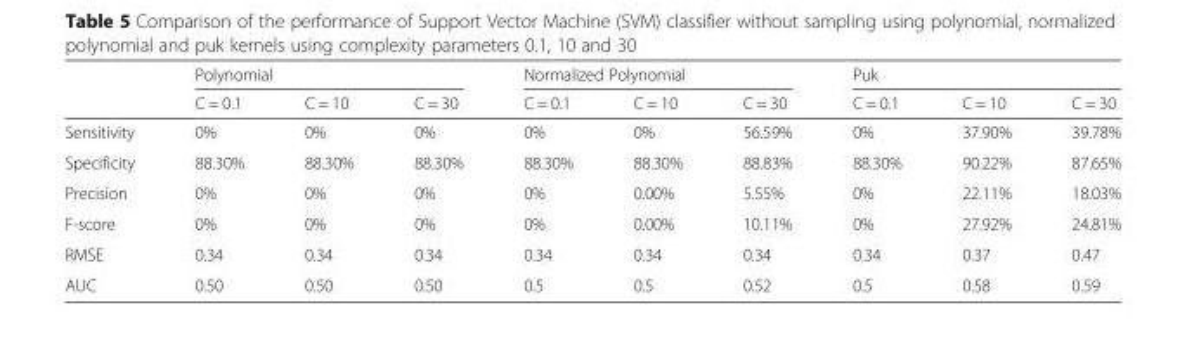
<table><thead><tr><td rowspan="2"></td><td colspan="3">Polynomial</td><td colspan="3">Normalized Polynomial</td><td colspan="3">Puk</td></tr><tr><td>C = 0.1</td><td>C = 10</td><td>C = 30</td><td>C = 0.1</td><td>C = 10</td><td>C = 30</td><td>C = 0.1</td><td>C = 10</td><td>C = 30</td></tr></thead><tbody><tr><td>Sensitivity</td><td>0%</td><td>0%</td><td>0%</td><td>0%</td><td>0%</td><td>56.59%</td><td>0%</td><td>37.90%</td><td>39.78%</td></tr><tr><td>Specificity</td><td>88.30%</td><td>88.30%</td><td>88.30%</td><td>88.30%</td><td>88.30%</td><td>88.83%</td><td>88.30%</td><td>90.22%</td><td>87.65%</td></tr><tr><td>Precision</td><td>0%</td><td>0%</td><td>0%</td><td>0%</td><td>0.00%</td><td>5.55%</td><td>0%</td><td>22.11%</td><td>18.03%</td></tr><tr><td>F-score</td><td>0%</td><td>0%</td><td>0%</td><td>0%</td><td>0.00%</td><td>10.11%</td><td>0%</td><td>27.92%</td><td>24.81%</td></tr><tr><td>RMSE</td><td>0.34</td><td>0.34</td><td>0.34</td><td>0.34</td><td>0.34</td><td>0.34</td><td>0.34</td><td>0.37</td><td>0.47</td></tr><tr><td>AUC</td><td>0.50</td><td>0.50</td><td>0.50</td><td>0.5</td><td>0.5</td><td>0.52</td><td>0.5</td><td>0.58</td><td>0.59</td></tr></tbody></table>